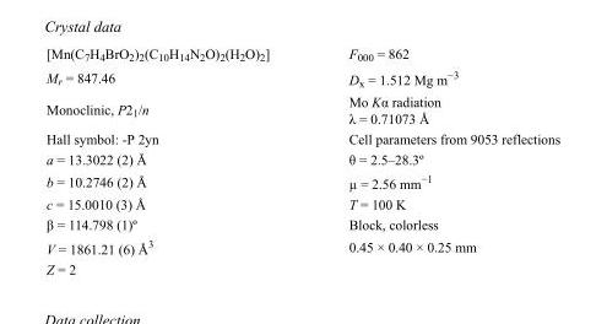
<table><tbody><tr><td>[Mn(C<sub>7</sub>H<sub>4</sub>BrO<sub>2</sub>)<sub>2</sub>(C<sub>10</sub>H<sub>14</sub>N<sub>2</sub>O)<sub>2</sub>(H<sub>2</sub>O)<sub>2</sub>]</td><td>F000 = 862</td></tr><tr><td>M<sub>r</sub> = 847.46</td><td>D<sub>x</sub> = 1.512 Mg m<sup>−3</sup></td></tr><tr><td>Monoclinic, P2<sub>1</sub>/n</td><td>Mo Kα radiation λ = 0.71073 Å</td></tr><tr><td>Hall symbol: -P 2yn</td><td>Cell parameters from 9053 reflections</td></tr><tr><td>a = 13.3022 (2) Å</td><td>θ = 2.5–28.3º</td></tr><tr><td>b = 10.2746 (2) Å</td><td>µ = 2.56 mm<sup>−1</sup></td></tr><tr><td>c = 15.0010 (3) Å</td><td>T = 100 K</td></tr><tr><td>β = 114.798 (1)º</td><td>Block, colorless</td></tr><tr><td>V = 1861.21 (6) Å<sup>3</sup></td><td>0.45 × 0.40 × 0.25 mm</td></tr><tr><td>Z = 2</td><td></td></tr></tbody></table>